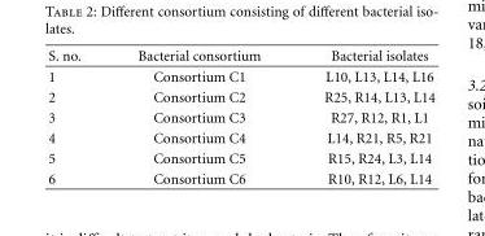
<table><thead><tr><td>S. no.</td><td>Bacterial consortium</td><td>Bacterial isolates</td></tr></thead><tbody><tr><td>1</td><td>Consortium C1</td><td>L10, L13, L14, L16</td></tr><tr><td>2</td><td>Consortium C2</td><td>R25, R14, L13, L14</td></tr><tr><td>3</td><td>Consortium C3</td><td>R27, R12, R1, L1</td></tr><tr><td>4</td><td>Consortium C4</td><td>L14, R21, R5, R21</td></tr><tr><td>5</td><td>Consortium C5</td><td>R15, R24, L3, L14</td></tr><tr><td>6</td><td>Consortium C6</td><td>R10, R12, L6, L14</td></tr></tbody></table>